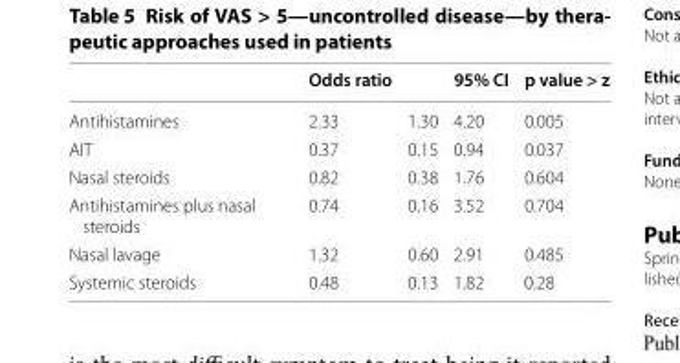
<table><thead><tr><td></td><td>Odds ratio</td><td></td><td>95% CI</td><td>p value &gt; z</td></tr></thead><tbody><tr><td>Antihistamines</td><td>2.33</td><td>1.30</td><td>4.20</td><td>0.005</td></tr><tr><td>AIT</td><td>0.37</td><td>0.15</td><td>0.94</td><td>0.037</td></tr><tr><td>Nasal steroids</td><td>0.82</td><td>0.38</td><td>1.76</td><td>0.604</td></tr><tr><td>Antihistamines plus nasal steroids</td><td>0.74</td><td>0.16</td><td>3.52</td><td>0.704</td></tr><tr><td>Nasal lavage</td><td>1.32</td><td>0.60</td><td>2.91</td><td>0.485</td></tr><tr><td>Systemic steroids</td><td>0.48</td><td>0.13</td><td>1.82</td><td>0.28</td></tr></tbody></table>